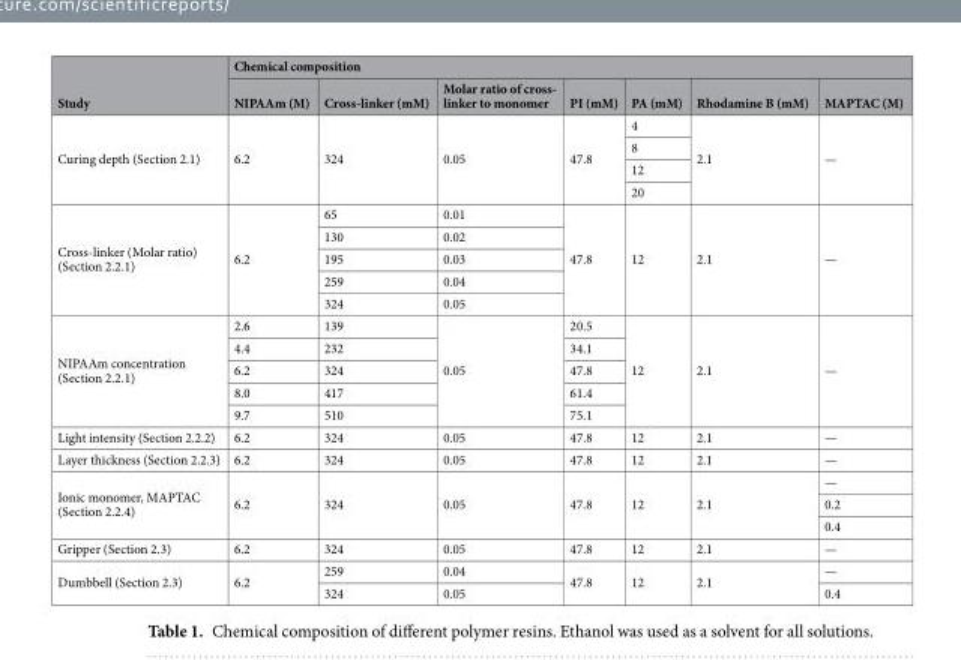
<table><thead><tr><td rowspan="2">Study</td><td colspan="7">Chemical composition</td></tr><tr><td>NIPAAm (M)</td><td>Cross-linker (mM)</td><td>Molar ratio of cross- linker to monomer</td><td>PI (mM)</td><td>PA (mM)</td><td>Rhodamine B (mM)</td><td>MAPTAC (M)</td></tr></thead><tbody><tr><td rowspan="4">Curing depth (Section 2.1)</td><td rowspan="4">6.2</td><td rowspan="4">324</td><td rowspan="4">0.05</td><td rowspan="4">47.8</td><td>4</td><td rowspan="4">2.1</td><td rowspan="4">—</td></tr><tr><td>8</td></tr><tr><td>12</td></tr><tr><td>20</td></tr><tr><td rowspan="5">Cross-linker (Molar ratio) (Section 2.2.1)</td><td rowspan="5">6.2</td><td>65</td><td>0.01</td><td rowspan="5">47.8</td><td rowspan="5">12</td><td rowspan="5">2.1</td><td rowspan="5">—</td></tr><tr><td>130</td><td>0.02</td></tr><tr><td>195</td><td>0.03</td></tr><tr><td>259</td><td>0.04</td></tr><tr><td>324</td><td>0.05</td></tr><tr><td rowspan="5">NIPAAm concentration (Section 2.2.1)</td><td>2.6</td><td>139</td><td rowspan="5">0.05</td><td>20.5</td><td rowspan="5">12</td><td rowspan="5">2.1</td><td rowspan="5">—</td></tr><tr><td>4.4</td><td>232</td><td>34.1</td></tr><tr><td>6.2</td><td>324</td><td>47.8</td></tr><tr><td>8.0</td><td>417</td><td>61.4</td></tr><tr><td>9.7</td><td>510</td><td>75.1</td></tr><tr><td>Light intensity (Section 2.2.2)</td><td>6.2</td><td>324</td><td>0.05</td><td>47.8</td><td>12</td><td>2.1</td><td>—</td></tr><tr><td>Layer thickness (Section 2.2.3)</td><td>6.2</td><td>324</td><td>0.05</td><td>47.8</td><td>12</td><td>2.1</td><td>—</td></tr><tr><td rowspan="3">Ionic monomer, MAPTAC (Section 2.2.4)</td><td rowspan="3">6.2</td><td rowspan="3">324</td><td rowspan="3">0.05</td><td rowspan="3">47.8</td><td rowspan="3">12</td><td rowspan="3">2.1</td><td>—</td></tr><tr><td>0.2</td></tr><tr><td>0.4</td></tr><tr><td>Gripper (Section 2.3)</td><td>6.2</td><td>324</td><td>0.05</td><td>47.8</td><td>12</td><td>2.1</td><td>—</td></tr><tr><td rowspan="2">Dumbbell (Section 2.3)</td><td rowspan="2">6.2</td><td>259</td><td>0.04</td><td rowspan="2">47.8</td><td rowspan="2">12</td><td rowspan="2">2.1</td><td>—</td></tr><tr><td>324</td><td>0.05</td><td>0.4</td></tr></tbody></table>